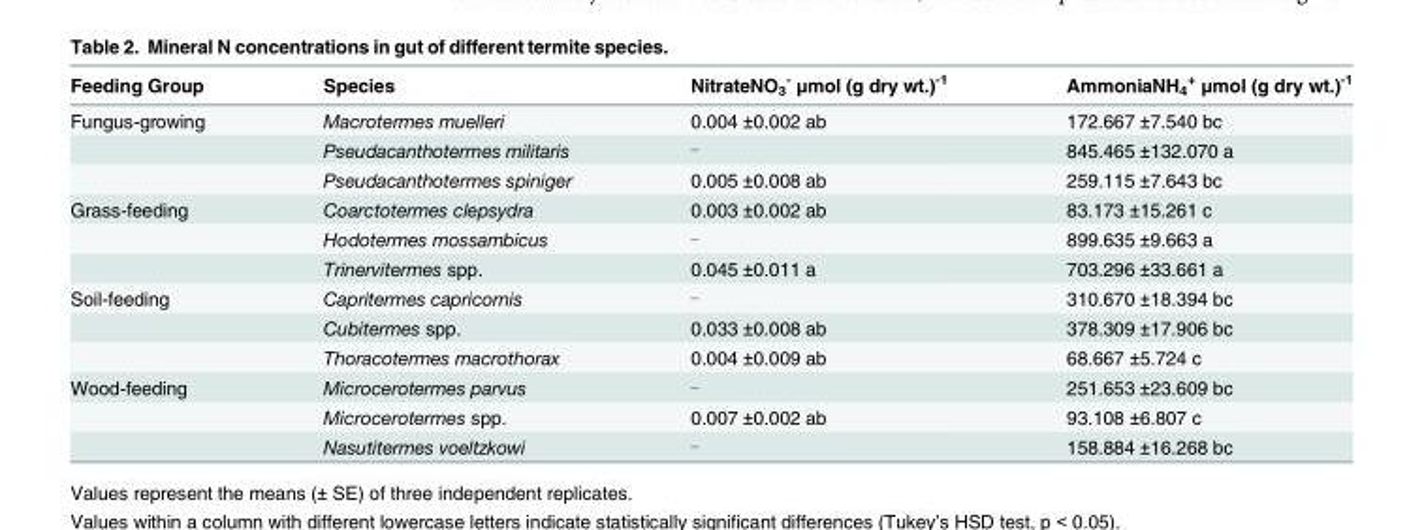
<table><thead><tr><td>Feeding Group</td><td>Species</td><td>NitrateNO<sub>3</sub> <sup>-</sup> μmol (g dry wt.)<sup>-1</sup></td><td>AmmoniaNH<sub>4</sub> <sup>+</sup> μmol (g dry wt.)<sup>-1</sup></td></tr></thead><tbody><tr><td rowspan="3">Fungus-growing</td><td>Macrotermes muelleri</td><td>0.004 ±0.002 ab</td><td>172.667 ±7.540 bc</td></tr><tr><td>Pseudacanthotermes militaris</td><td><sup>_</sup></td><td>845.465 ±132.070 a</td></tr><tr><td>Pseudacanthotermes spiniger</td><td>0.005 ±0.008 ab</td><td>259.115 ±7.643 bc</td></tr><tr><td rowspan="3">Grass-feeding</td><td>Coarctotermes clepsydra</td><td>0.003 ±0.002 ab</td><td>83.173 ±15.261 c</td></tr><tr><td>Hodotermes mossambicus</td><td><sup>_</sup></td><td>899.635 ±9.663 a</td></tr><tr><td>Trinervitermes spp.</td><td>0.045 ±0.011 a</td><td>703.296 ±33.661 a</td></tr><tr><td rowspan="3">Soil-feeding</td><td>Capritermes capricornis</td><td><sup>_</sup></td><td>310.670 ±18.394 bc</td></tr><tr><td>Cubitermes spp.</td><td>0.033 ±0.008 ab</td><td>378.309 ±17.906 bc</td></tr><tr><td>Thoracotermes macrothorax</td><td>0.004 ±0.009 ab</td><td>68.667 ±5.724 c</td></tr><tr><td rowspan="3">Wood-feeding</td><td>Microcerotermes parvus</td><td><sup>_</sup></td><td>251.653 ±23.609 bc</td></tr><tr><td>Microcerotermes spp.</td><td>0.007 ±0.002 ab</td><td>93.108 ±6.807 c</td></tr><tr><td>Nasutitermes voeltzkowi</td><td><sup>_</sup></td><td>158.884 ±16.268 bc</td></tr></tbody></table>